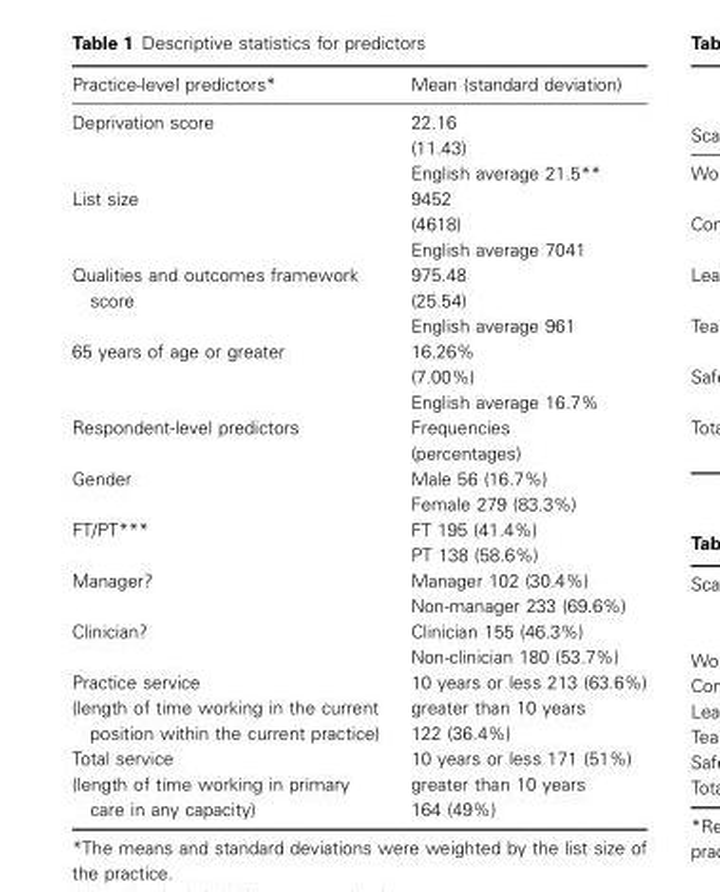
<table><thead><tr><td>Practice-level predictors*</td><td>Mean (standard deviation)</td></tr></thead><tbody><tr><td>Deprivation score</td><td>22.16 (11.43) English average 21.5**</td></tr><tr><td>List size</td><td>9452 (4618) English average 7041</td></tr><tr><td>Qualities and outcomes framework score</td><td>975.48 (25.54) English average 961</td></tr><tr><td>65 years of age or greater</td><td>16.26% (7.00%) English average 16.7%</td></tr><tr><td>Respondent-level predictors</td><td>Frequencies (percentages)</td></tr><tr><td>Gender</td><td>Male 56 (16.7%) Female 279 (83.3%)</td></tr><tr><td>FT/PT***</td><td>FT 195 (41.4%) PT 138 (58.6%)</td></tr><tr><td>Manager?</td><td>Manager 102 (30.4%) Non-manager 233 (69.6%)</td></tr><tr><td>Clinician?</td><td>Clinician 155 (46.3%) Non-clinician 180 (53.7%)</td></tr><tr><td>Practice service (length of time working in the current position within the current practice)</td><td>10 years or less 213 (63.6%) greater than 10 years 122 (36.4%)</td></tr><tr><td>Total service (length of time working in primary care in any capacity)</td><td>10 years or less 171 (51%) greater than 10 years 164 (49%)</td></tr></tbody></table>